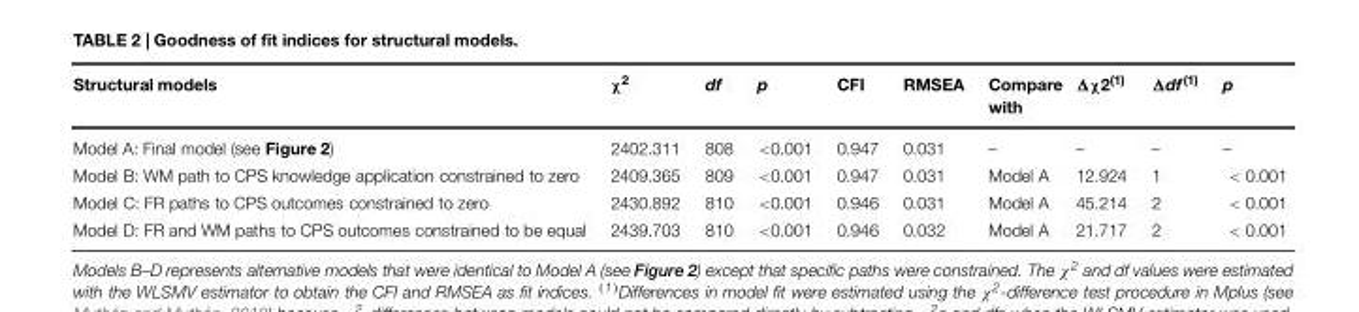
<table><thead><tr><td>Structural models</td><td>χ<sup>2</sup></td><td>df</td><td>p</td><td>CFI</td><td>RMSEA</td><td>Compare with</td><td>Δχ2<sup>(1)</sup></td><td>Δdf<sup>(1)</sup></td><td>p</td></tr></thead><tbody><tr><td>Model A: Final model (see Figure 2)</td><td>2402.311</td><td>808</td><td>&lt;0.001</td><td>0.947</td><td>0.031</td><td>–</td><td>–</td><td>–</td><td>–</td></tr><tr><td>Model B: WM path to CPS knowledge application constrained to zero</td><td>2409.365</td><td>809</td><td>&lt;0.001</td><td>0.947</td><td>0.031</td><td>Model A</td><td>12.924</td><td>1</td><td>&lt; 0.001</td></tr><tr><td>Model C: FR paths to CPS outcomes constrained to zero</td><td>2430.892</td><td>810</td><td>&lt;0.001</td><td>0.946</td><td>0.031</td><td>Model A</td><td>45.214</td><td>2</td><td>&lt; 0.001</td></tr><tr><td>Model D: FR and WM paths to CPS outcomes constrained to be equal</td><td>2439.703</td><td>810</td><td>&lt;0.001</td><td>0.946</td><td>0.032</td><td>Model A</td><td>21.717</td><td>2</td><td>&lt; 0.001</td></tr></tbody></table>